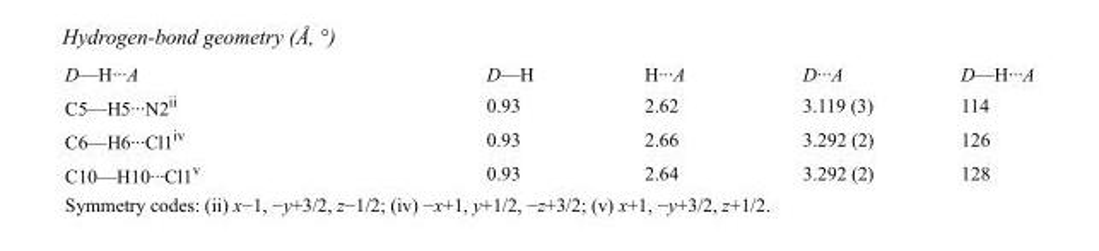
<table><tbody><tr><td>D—H···A</td><td>D—H</td><td>H···A</td><td>D···A</td><td>D—H···A</td></tr><tr><td>C5—H5···N2<sup>ii</sup></td><td>0.93</td><td>2.62</td><td>3.119 (3)</td><td>114</td></tr><tr><td>C6—H6···Cl1<sup>iv</sup></td><td>0.93</td><td>2.66</td><td>3.292 (2)</td><td>126</td></tr><tr><td>C10—H10···Cl1<sup>v</sup></td><td>0.93</td><td>2.64</td><td>3.292 (2)</td><td>128</td></tr></tbody></table>